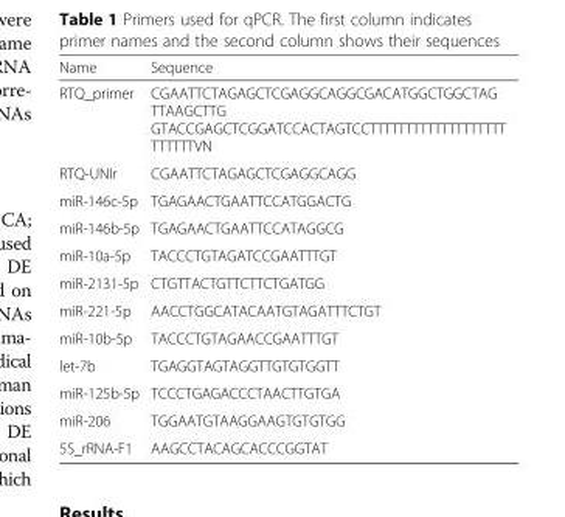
<table><thead><tr><td>Name</td><td>Sequence</td></tr></thead><tbody><tr><td>RTQ_primer</td><td>CGAATTCTAGAGCTCGAGGCAGGCGACATGGCTGGCTAG TTAAGCTTG GTACCGAGCTCGGATCCACTAGTCCTTTTTTTTTTTTTTTTTTT TTTTTTVN</td></tr><tr><td>RTQ-UNIr</td><td>CGAATTCTAGAGCTCGAGGCAGG</td></tr><tr><td>miR-146c-5p</td><td>TGAGAACTGAATTCCATGGACTG</td></tr><tr><td>miR-146b-5p</td><td>TGAGAACTGAATTCCATAGGCG</td></tr><tr><td>miR-10a-5p</td><td>TACCCTGTAGATCCGAATTTGT</td></tr><tr><td>miR-2131-5p</td><td>CTGTTACTGTTCTTCTGATGG</td></tr><tr><td>miR-221-5p</td><td>AACCTGGCATACAATGTAGATTTCTGT</td></tr><tr><td>miR-10b-5p</td><td>TACCCTGTAGAACCGAATTTGT</td></tr><tr><td>let-7b</td><td>TGAGGTAGTAGGTTGTGTGGTT</td></tr><tr><td>miR-125b-5p</td><td>TCCCTGAGACCCTAACTTGTGA</td></tr><tr><td>miR-206</td><td>TGGAATGTAAGGAAGTGTGTGG</td></tr><tr><td>5S_rRNA-F1</td><td>AAGCCTACAGCACCCGGTAT</td></tr></tbody></table>